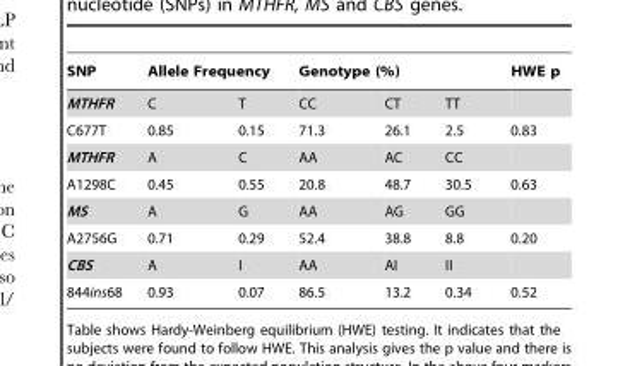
<table><thead><tr><td rowspan="2">SNP MTHFR</td><td colspan="2">Allele Frequency</td><td colspan="3">Genotype (%)</td><td rowspan="2">HWE p</td></tr><tr><td>C</td><td>T</td><td>CC</td><td>CT</td><td>TT</td></tr></thead><tbody><tr><td>C677T</td><td>0.85</td><td>0.15</td><td>71.3</td><td>26.1</td><td>2.5</td><td>0.83</td></tr><tr><td>MTHFR</td><td>A</td><td>C</td><td>AA</td><td>AC</td><td>CC</td><td></td></tr><tr><td>A1298C</td><td>0.45</td><td>0.55</td><td>20.8</td><td>48.7</td><td>30.5</td><td>0.63</td></tr><tr><td>MS</td><td>A</td><td>G</td><td>AA</td><td>AG</td><td>GG</td><td></td></tr><tr><td>A2756G</td><td>0.71</td><td>0.29</td><td>52.4</td><td>38.8</td><td>8.8</td><td>0.20</td></tr><tr><td>CBS</td><td>A</td><td>I</td><td>AA</td><td>AI</td><td>II</td><td></td></tr><tr><td>844ins68</td><td>0.93</td><td>0.07</td><td>86.5</td><td>13.2</td><td>0.34</td><td>0.52</td></tr></tbody></table>